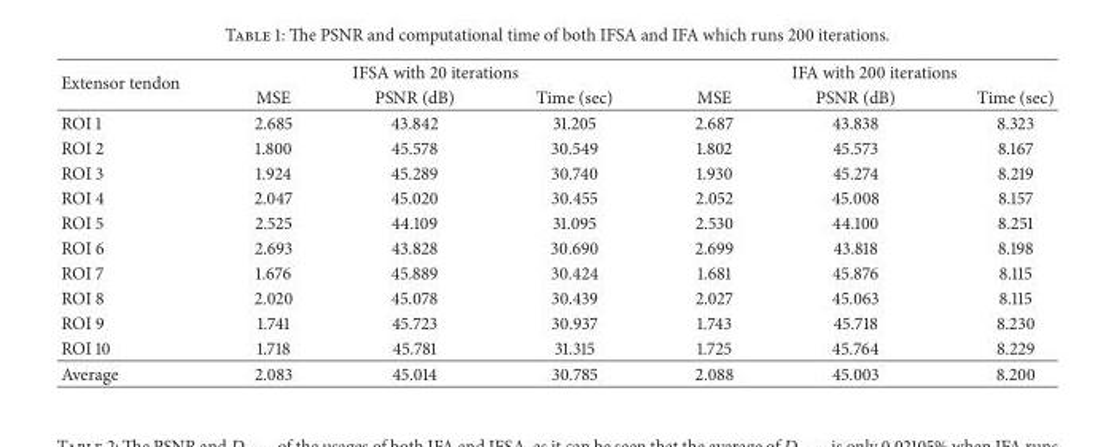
<table><thead><tr><td rowspan="2">Extensor tendon</td><td colspan="3">IFSA with 20 iterations</td><td colspan="3">IFA with 200 iterations</td></tr><tr><td>MSE</td><td>PSNR (dB)</td><td>Time (sec)</td><td>MSE</td><td>PSNR (dB)</td><td>Time (sec)</td></tr></thead><tbody><tr><td>ROI 1</td><td>2.685</td><td>43.842</td><td>31.205</td><td>2.687</td><td>43.838</td><td>8.323</td></tr><tr><td>ROI 2</td><td>1.800</td><td>45.578</td><td>30.549</td><td>1.802</td><td>45.573</td><td>8.167</td></tr><tr><td>ROI 3</td><td>1.924</td><td>45.289</td><td>30.740</td><td>1.930</td><td>45.274</td><td>8.219</td></tr><tr><td>ROI 4</td><td>2.047</td><td>45.020</td><td>30.455</td><td>2.052</td><td>45.008</td><td>8.157</td></tr><tr><td>ROI 5</td><td>2.525</td><td>44.109</td><td>31.095</td><td>2.530</td><td>44.100</td><td>8.251</td></tr><tr><td>ROI 6</td><td>2.693</td><td>43.828</td><td>30.690</td><td>2.699</td><td>43.818</td><td>8.198</td></tr><tr><td>ROI 7</td><td>1.676</td><td>45.889</td><td>30.424</td><td>1.681</td><td>45.876</td><td>8.115</td></tr><tr><td>ROI 8</td><td>2.020</td><td>45.078</td><td>30.439</td><td>2.027</td><td>45.063</td><td>8.115</td></tr><tr><td>ROI 9</td><td>1.741</td><td>45.723</td><td>30.937</td><td>1.743</td><td>45.718</td><td>8.230</td></tr><tr><td>ROI 10</td><td>1.718</td><td>45.781</td><td>31.315</td><td>1.725</td><td>45.764</td><td>8.229</td></tr><tr><td>Average</td><td>2.083</td><td>45.014</td><td>30.785</td><td>2.088</td><td>45.003</td><td>8.200</td></tr></tbody></table>